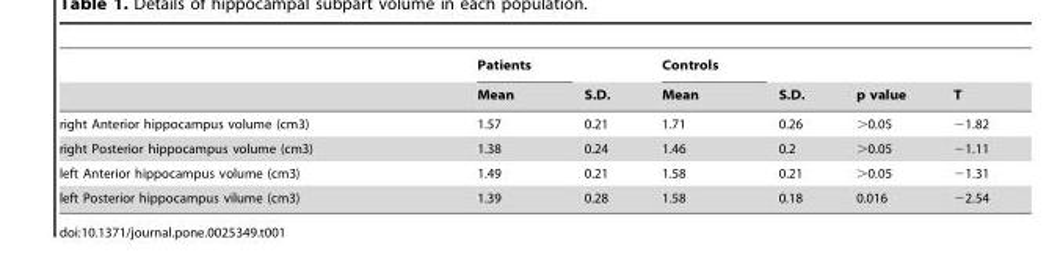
<table><thead><tr><td rowspan="2"></td><td rowspan="2">Patients Mean</td><td rowspan="2">S.D.</td><td rowspan="2">Controls Mean</td><td rowspan="2">S.D.</td><td rowspan="2">p value</td><td rowspan="2">T</td></tr><tr></tr></thead><tbody><tr><td>right Anterior hippocampus volume (cm3)</td><td>1.57</td><td>0.21</td><td>1.71</td><td>0.26</td><td>&gt;0.05</td><td>−1.82</td></tr><tr><td>right Posterior hippocampus volume (cm3)</td><td>1.38</td><td>0.24</td><td>1.46</td><td>0.2</td><td>&gt;0.05</td><td>−1.11</td></tr><tr><td>left Anterior hippocampus volume (cm3)</td><td>1.49</td><td>0.21</td><td>1.58</td><td>0.21</td><td>&gt;0.05</td><td>−1.31</td></tr><tr><td>left Posterior hippocampus vilume (cm3)</td><td>1.39</td><td>0.28</td><td>1.58</td><td>0.18</td><td>0.016</td><td>−2.54</td></tr></tbody></table>